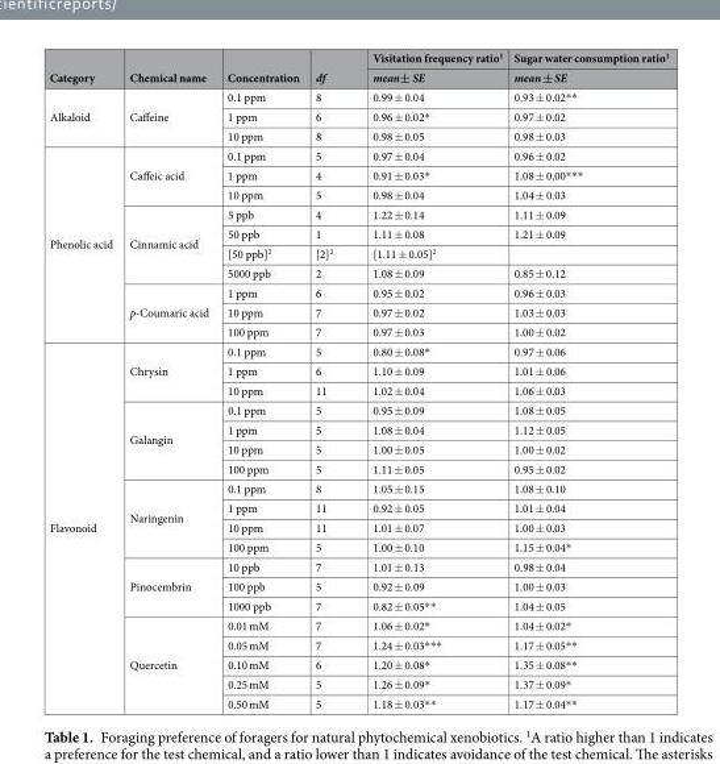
<table><thead><tr><td rowspan="2">Category</td><td rowspan="2">Chemical name</td><td rowspan="2">Concentration</td><td rowspan="2">df</td><td rowspan="2">Visitation frequency ratio<sup>1</sup> mean± SE</td><td rowspan="2">Sugar water consumption ratio<sup>1</sup> mean ± SE</td></tr><tr></tr></thead><tbody><tr><td rowspan="3">Alkaloid</td><td rowspan="3">Caffeine</td><td>0.1 ppm</td><td>8</td><td>0.99 ± 0.04</td><td>0.93 ± 0.02**</td></tr><tr><td>1 ppm</td><td>6</td><td>0.96 ± 0.02*</td><td>0.97 ± 0.02</td></tr><tr><td>10 ppm</td><td>8</td><td>0.98 ± 0.05</td><td>0.98 ± 0.03</td></tr><tr><td rowspan="10">Phenolic acid</td><td rowspan="3">Caffeic acid</td><td>0.1 ppm</td><td>5</td><td>0.97 ± 0.04</td><td>0.96 ± 0.02</td></tr><tr><td>1 ppm</td><td>4</td><td>0.91 ± 0.03*</td><td>1.08 ± 0.00***</td></tr><tr><td>10 ppm</td><td>5</td><td>0.98 ± 0.04</td><td>1.04 ± 0.03</td></tr><tr><td rowspan="4">Cinnamic acid</td><td>5 ppb</td><td>4</td><td>1.22 ± 0.14</td><td>1.11 ± 0.09</td></tr><tr><td>50 ppb</td><td>1</td><td>1.11 ± 0.08</td><td>1.21 ± 0.09</td></tr><tr><td>[50 ppb]<sup>2</sup></td><td>[2]<sup>2</sup></td><td>[1.11 ± 0.05]<sup>2</sup></td><td></td></tr><tr><td>5000 ppb</td><td>2</td><td>1.08 ± 0.09</td><td>0.85 ± 0.12</td></tr><tr><td rowspan="3">p-Coumaric acid</td><td>1 ppm</td><td>6</td><td>0.95 ± 0.02</td><td>0.96 ± 0.03</td></tr><tr><td>10 ppm</td><td>7</td><td>0.97 ± 0.02</td><td>1.03 ± 0.03</td></tr><tr><td>100 ppm</td><td>7</td><td>0.97 ± 0.03</td><td>1.00 ± 0.02</td></tr><tr><td rowspan="19">Flavonoid</td><td rowspan="3">Chrysin</td><td>0.1 ppm</td><td>5</td><td>0.80 ± 0.08*</td><td>0.97 ± 0.06</td></tr><tr><td>1 ppm</td><td>6</td><td>1.10 ± 0.09</td><td>1.01 ± 0.06</td></tr><tr><td>10 ppm</td><td>11</td><td>1.02 ± 0.04</td><td>1.06 ± 0.03</td></tr><tr><td rowspan="4">Galangin</td><td>0.1 ppm</td><td>5</td><td>0.95 ± 0.09</td><td>1.08 ± 0.05</td></tr><tr><td>1 ppm</td><td>5</td><td>1.08 ± 0.04</td><td>1.12 ± 0.05</td></tr><tr><td>10 ppm</td><td>5</td><td>1.00 ± 0.05</td><td>1.00 ± 0.02</td></tr><tr><td>100 ppm</td><td>5</td><td>1.11 ± 0.05</td><td>0.95 ± 0.02</td></tr><tr><td rowspan="4">Naringenin</td><td>0.1 ppm</td><td>8</td><td>1.05 ± 0.15</td><td>1.08 ± 0.10</td></tr><tr><td>1 ppm</td><td>11</td><td>0.92 ± 0.05</td><td>1.01 ± 0.04</td></tr><tr><td>10 ppm</td><td>11</td><td>1.01 ± 0.07</td><td>1.00 ± 0.03</td></tr><tr><td>100 ppm</td><td>5</td><td>1.00 ± 0.10</td><td>1.15 ± 0.04*</td></tr><tr><td rowspan="3">Pinocembrin</td><td>10 ppb</td><td>7</td><td>1.01 ± 0.13</td><td>0.98 ± 0.04</td></tr><tr><td>100 ppb</td><td>5</td><td>0.92 ± 0.09</td><td>1.00 ± 0.03</td></tr><tr><td>1000 ppb</td><td>7</td><td>0.82 ± 0.05**</td><td>1.04 ± 0.05</td></tr><tr><td rowspan="5">Quercetin</td><td>0.01 mM</td><td>7</td><td>1.06 ± 0.02*</td><td>1.04 ± 0.02*</td></tr><tr><td>0.05 mM</td><td>7</td><td>1.24 ± 0.03***</td><td>1.17 ± 0.05**</td></tr><tr><td>0.10 mM</td><td>6</td><td>1.20 ± 0.08*</td><td>1.35 ± 0.08**</td></tr><tr><td>0.25 mM</td><td>5</td><td>1.26 ± 0.09*</td><td>1.37 ± 0.09*</td></tr><tr><td>0.50 mM</td><td>5</td><td>1.18 ± 0.03**</td><td>1.17 ± 0.04**</td></tr></tbody></table>